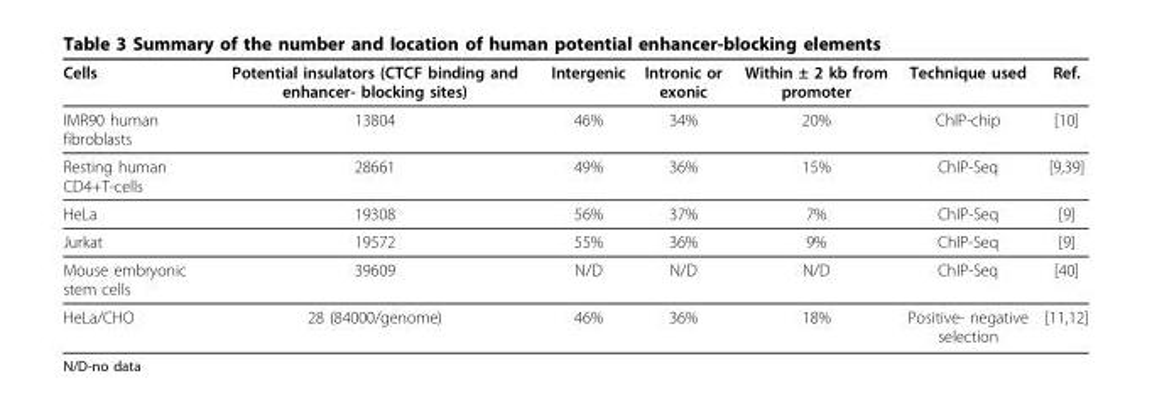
<table><thead><tr><td>Cells</td><td>Potential insulators (CTCF binding and enhancer- blocking sites)</td><td>Intergenic</td><td>Intronic or exonic</td><td>Within ± 2 kb from promoter</td><td>Technique used</td><td>Ref.</td></tr></thead><tbody><tr><td>IMR90 human fibroblasts</td><td>13804</td><td>46%</td><td>34%</td><td>20%</td><td>ChIP-chip</td><td>[10]</td></tr><tr><td>Resting human CD4+T-cells</td><td>28661</td><td>49%</td><td>36%</td><td>15%</td><td>ChIP-Seq</td><td>[9,39]</td></tr><tr><td>HeLa</td><td>19308</td><td>56%</td><td>37%</td><td>7%</td><td>ChIP-Seq</td><td>[9]</td></tr><tr><td>Jurkat</td><td>19572</td><td>55%</td><td>36%</td><td>9%</td><td>ChIP-Seq</td><td>[9]</td></tr><tr><td>Mouse embryonic stem cells</td><td>39609</td><td>N/D</td><td>N/D</td><td>N/D</td><td>ChIP-Seq</td><td>[40]</td></tr><tr><td>HeLa/CHO</td><td>28 (84000/genome)</td><td>46%</td><td>36%</td><td>18%</td><td>Positive- negative selection</td><td>[11,12]</td></tr></tbody></table>